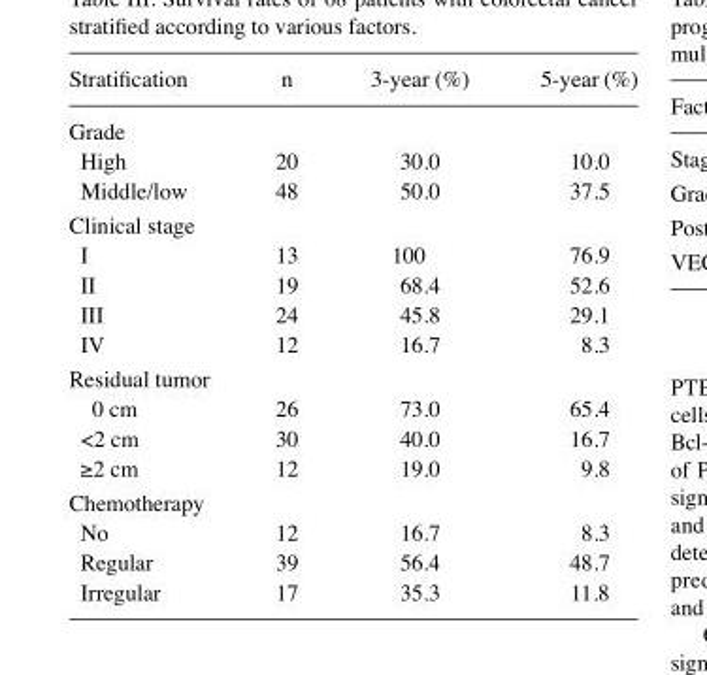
<table><thead><tr><td>Stratification</td><td>n</td><td>3-year (%)</td><td>5-year (%)</td></tr></thead><tbody><tr><td colspan="4">Grade</td></tr><tr><td>High</td><td>20</td><td>30.0</td><td>10.0</td></tr><tr><td>Middle/low</td><td>48</td><td>50.0</td><td>37.5</td></tr><tr><td colspan="4">Clinical stage</td></tr><tr><td>I</td><td>13</td><td>100</td><td>76.9</td></tr><tr><td>II</td><td>19</td><td>68.4</td><td>52.6</td></tr><tr><td>III</td><td>24</td><td>45.8</td><td>29.1</td></tr><tr><td>IV</td><td>12</td><td>16.7</td><td>8.3</td></tr><tr><td colspan="4">Residual tumor</td></tr><tr><td>0 cm</td><td>26</td><td>73.0</td><td>65.4</td></tr><tr><td>&lt;2 cm</td><td>30</td><td>40.0</td><td>16.7</td></tr><tr><td>≥2 cm</td><td>12</td><td>19.0</td><td>9.8</td></tr><tr><td colspan="4">Chemotherapy</td></tr><tr><td>No</td><td>12</td><td>16.7</td><td>8.3</td></tr><tr><td>Regular</td><td>39</td><td>56.4</td><td>48.7</td></tr><tr><td>Irregular</td><td>17</td><td>35.3</td><td>11.8</td></tr></tbody></table>